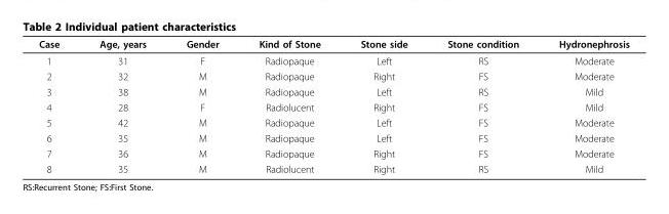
<table><thead><tr><td>Case</td><td>Age, years</td><td>Gender</td><td>Kind of Stone</td><td>Stone side</td><td>Stone condition</td><td>Hydronephrosis</td></tr></thead><tbody><tr><td>1</td><td>31</td><td>F</td><td>Radiopaque</td><td>Left</td><td>RS</td><td>Moderate</td></tr><tr><td>2</td><td>32</td><td>M</td><td>Radiopaque</td><td>Right</td><td>FS</td><td>Moderate</td></tr><tr><td>3</td><td>38</td><td>M</td><td>Radiopaque</td><td>Left</td><td>RS</td><td>Mild</td></tr><tr><td>4</td><td>28</td><td>F</td><td>Radiolucent</td><td>Right</td><td>FS</td><td>Mild</td></tr><tr><td>5</td><td>42</td><td>M</td><td>Radiopaque</td><td>Left</td><td>FS</td><td>Moderate</td></tr><tr><td>6</td><td>35</td><td>M</td><td>Radiopaque</td><td>Left</td><td>FS</td><td>Moderate</td></tr><tr><td>7</td><td>36</td><td>M</td><td>Radiopaque</td><td>Right</td><td>FS</td><td>Moderate</td></tr><tr><td>8</td><td>35</td><td>M</td><td>Radiolucent</td><td>Right</td><td>RS</td><td>Mild</td></tr></tbody></table>